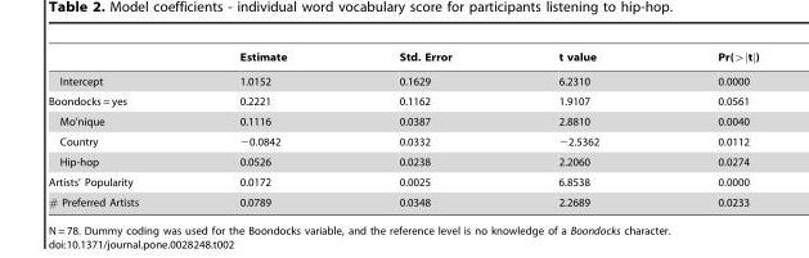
<table><thead><tr><td></td><td>Estimate</td><td>Std. Error</td><td>t value</td><td>Pr(wjtj)</td></tr></thead><tbody><tr><td>Intercept</td><td>1.0152</td><td>0.1629</td><td>6.2310</td><td>0.0000</td></tr><tr><td>Boondocks = yes</td><td>0.2221</td><td>0.1162</td><td>1.9107</td><td>0.0561</td></tr><tr><td>Mo’nique</td><td>0.1116</td><td>0.0387</td><td>2.8810</td><td>0.0040</td></tr><tr><td>Country</td><td>−0.0842</td><td>0.0332</td><td>−2.5362</td><td>0.0112</td></tr><tr><td>Hip-hop</td><td>0.0526</td><td>0.0238</td><td>2.2060</td><td>0.0274</td></tr><tr><td>Artists’ Popularity</td><td>0.0172</td><td>0.0025</td><td>6.8538</td><td>0.0000</td></tr><tr><td># Preferred Artists</td><td>0.0789</td><td>0.0348</td><td>2.2689</td><td>0.0233</td></tr></tbody></table>